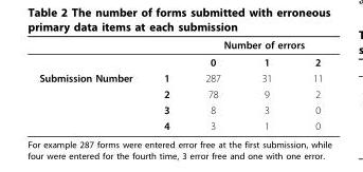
<table><thead><tr><td rowspan="2"></td><td rowspan="2"></td><td colspan="3">Number of errors</td></tr><tr><td>0</td><td>1</td><td>2</td></tr></thead><tbody><tr><td rowspan="4">Submission Number</td><td>1</td><td>287</td><td>31</td><td>11</td></tr><tr><td>2</td><td>78</td><td>9</td><td>2</td></tr><tr><td>3</td><td>8</td><td>3</td><td>0</td></tr><tr><td>4</td><td>3</td><td>1</td><td>0</td></tr></tbody></table>